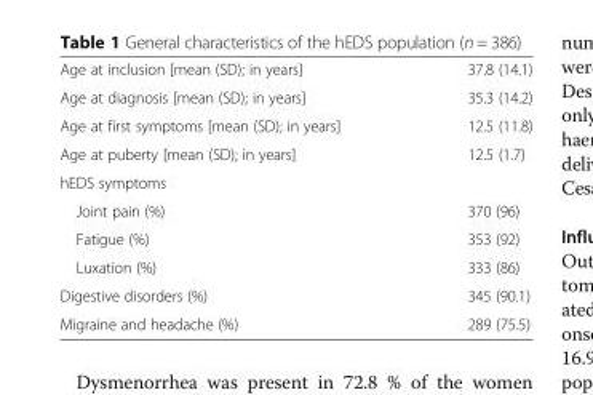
<table><tbody><tr><td>Age at inclusion [mean (SD); in years]</td><td>37.8 (14.1)</td></tr><tr><td>Age at diagnosis [mean (SD); in years]</td><td>35.3 (14.2)</td></tr><tr><td>Age at first symptoms [mean (SD); in years]</td><td>12.5 (11.8)</td></tr><tr><td>Age at puberty [mean (SD); in years]</td><td>12.5 (1.7)</td></tr><tr><td colspan="2">hEDS symptoms</td></tr><tr><td>Joint pain (%)</td><td>370 (96)</td></tr><tr><td>Fatigue (%)</td><td>353 (92)</td></tr><tr><td>Luxation (%)</td><td>333 (86)</td></tr><tr><td>Digestive disorders (%)</td><td>345 (90.1)</td></tr><tr><td>Migraine and headache (%)</td><td>289 (75.5)</td></tr></tbody></table>